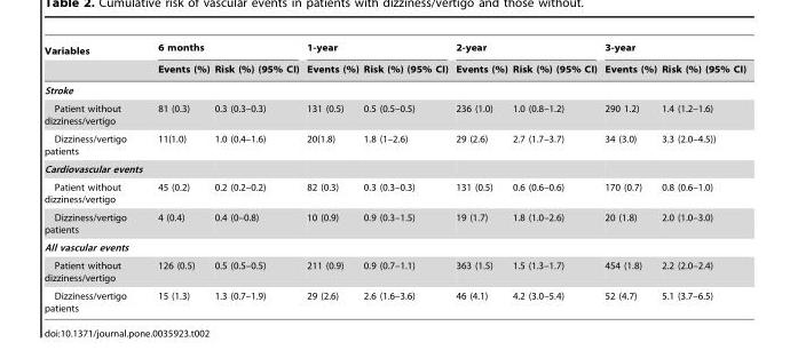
<table><thead><tr><td rowspan="2">Variables</td><td colspan="2">6 months</td><td colspan="2">1-year</td><td colspan="2">2-year</td><td colspan="2">3-year</td></tr><tr><td>Events (%)</td><td>Risk (%) (95% CI)</td><td>Events (%)</td><td>Risk (%) (95% CI)</td><td>Events (%)</td><td>Risk (%) (95% CI)</td><td>Events (%)</td><td>Risk (%) (95% CI)</td></tr></thead><tbody><tr><td colspan="9">Stroke</td></tr><tr><td>Patient without dizziness/vertigo</td><td>81 (0.3)</td><td>0.3 (0.3–0.3)</td><td>131 (0.5)</td><td>0.5 (0.5–0.5)</td><td>236 (1.0)</td><td>1.0 (0.8–1.2)</td><td>290 1.2)</td><td>1.4 (1.2–1.6)</td></tr><tr><td>Dizziness/vertigo patients</td><td>11(1.0)</td><td>1.0 (0.4–1.6)</td><td>20(1.8)</td><td>1.8 (1–2.6)</td><td>29 (2.6)</td><td>2.7 (1.7–3.7)</td><td>34 (3.0)</td><td>3.3 (2.0–4.5))</td></tr><tr><td colspan="9">Cardiovascular events</td></tr><tr><td>Patient without dizziness/vertigo</td><td>45 (0.2)</td><td>0.2 (0.2–0.2)</td><td>82 (0.3)</td><td>0.3 (0.3–0.3)</td><td>131 (0.5)</td><td>0.6 (0.6–0.6)</td><td>170 (0.7)</td><td>0.8 (0.6–1.0)</td></tr><tr><td>Dizziness/vertigo patients</td><td>4 (0.4)</td><td>0.4 (0–0.8)</td><td>10 (0.9)</td><td>0.9 (0.3–1.5)</td><td>19 (1.7)</td><td>1.8 (1.0–2.6)</td><td>20 (1.8)</td><td>2.0 (1.0–3.0)</td></tr><tr><td colspan="9">All vascular events</td></tr><tr><td>Patient without dizziness/vertigo</td><td>126 (0.5)</td><td>0.5 (0.5–0.5)</td><td>211 (0.9)</td><td>0.9 (0.7–1.1)</td><td>363 (1.5)</td><td>1.5 (1.3–1.7)</td><td>454 (1.8)</td><td>2.2 (2.0–2.4)</td></tr><tr><td>Dizziness/vertigo patients</td><td>15 (1.3)</td><td>1.3 (0.7–1.9)</td><td>29 (2.6)</td><td>2.6 (1.6–3.6)</td><td>46 (4.1)</td><td>4.2 (3.0–5.4)</td><td>52 (4.7)</td><td>5.1 (3.7–6.5)</td></tr></tbody></table>